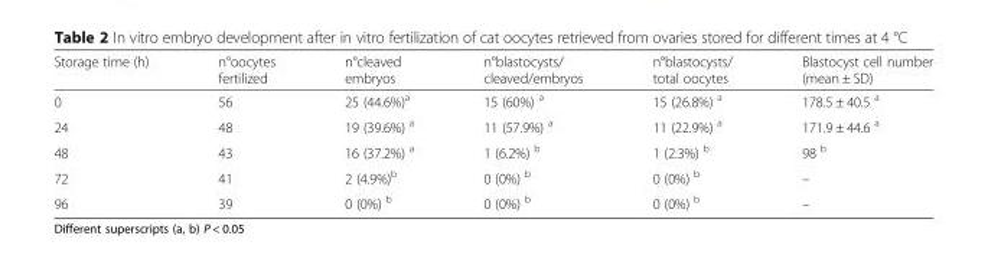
<table><thead><tr><td>Storage time (h)</td><td>n°oocytes fertilized</td><td>n°cleaved embryos</td><td>n°blastocysts/ cleaved/embryos</td><td>n°blastocysts/ total oocytes</td><td>Blastocyst cell number (mean ± SD)</td></tr></thead><tbody><tr><td>0</td><td>56</td><td>25 (44.6%)<sup>a</sup></td><td>15 (60%) <sup>a</sup></td><td>15 (26.8%) <sup>a</sup></td><td>178.5 ± 40.5 <sup>a</sup></td></tr><tr><td>24</td><td>48</td><td>19 (39.6%) <sup>a</sup></td><td>11 (57.9%) <sup>a</sup></td><td>11 (22.9%) <sup>a</sup></td><td>171.9 ± 44.6 <sup>a</sup></td></tr><tr><td>48</td><td>43</td><td>16 (37.2%) <sup>a</sup></td><td>1 (6.2%) <sup>b</sup></td><td>1 (2.3%) <sup>b</sup></td><td>98 <sup>b</sup></td></tr><tr><td>72</td><td>41</td><td>2 (4.9%)<sup>b</sup></td><td>0 (0%) <sup>b</sup></td><td>0 (0%) <sup>b</sup></td><td>–</td></tr><tr><td>96</td><td>39</td><td>0 (0%) <sup>b</sup></td><td>0 (0%) <sup>b</sup></td><td>0 (0%) <sup>b</sup></td><td>–</td></tr></tbody></table>